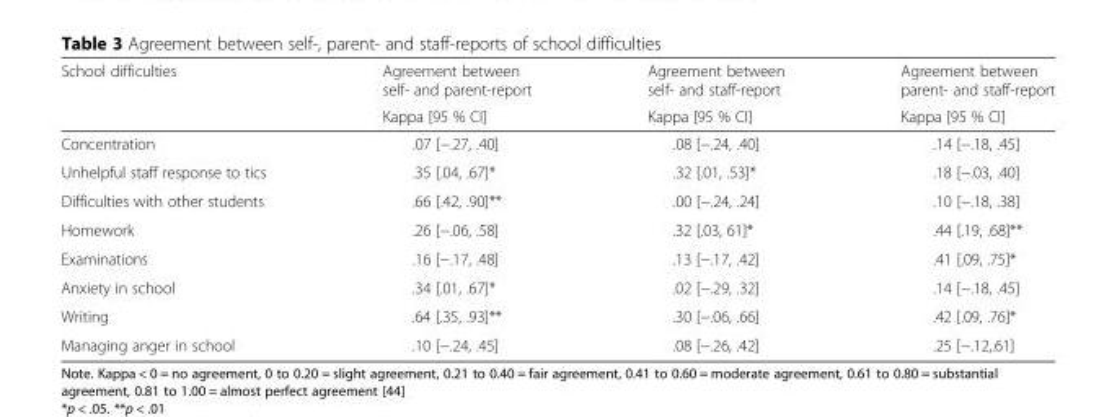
<table><thead><tr><td rowspan="2">School difficulties</td><td rowspan="2">Agreement between self- and parent-report Kappa [95 % CI]</td><td rowspan="2">Agreement between self- and staff-report Kappa [95 % CI]</td><td rowspan="2">Agreement between parent- and staff-report Kappa [95 % CI]</td></tr><tr></tr></thead><tbody><tr><td>Concentration</td><td>.07 [−.27, .40]</td><td>.08 [−.24, .40]</td><td>.14 [−.18, .45]</td></tr><tr><td>Unhelpful staff response to tics</td><td>.35 [.04, .67]*</td><td>.32 [.01, .53]*</td><td>.18 [−.03, .40]</td></tr><tr><td>Difficulties with other students</td><td>.66 [.42, .90]**</td><td>.00 [−.24, .24]</td><td>.10 [−.18, .38]</td></tr><tr><td>Homework</td><td>.26 [−.06, .58]</td><td>.32 [.03, 61]*</td><td>.44 [.19, .68]**</td></tr><tr><td>Examinations</td><td>.16 [−.17, .48]</td><td>.13 [−.17, .42]</td><td>.41 [.09, .75]*</td></tr><tr><td>Anxiety in school</td><td>.34 [.01, .67]*</td><td>.02 [−.29, .32]</td><td>.14 [−.18, .45]</td></tr><tr><td>Writing</td><td>.64 [.35, .93]**</td><td>.30 [−.06, .66]</td><td>.42 [.09, .76]*</td></tr><tr><td>Managing anger in school</td><td>.10 [−.24, .45]</td><td>.08 [−.26, .42]</td><td>.25 [−.12,.61]</td></tr></tbody></table>